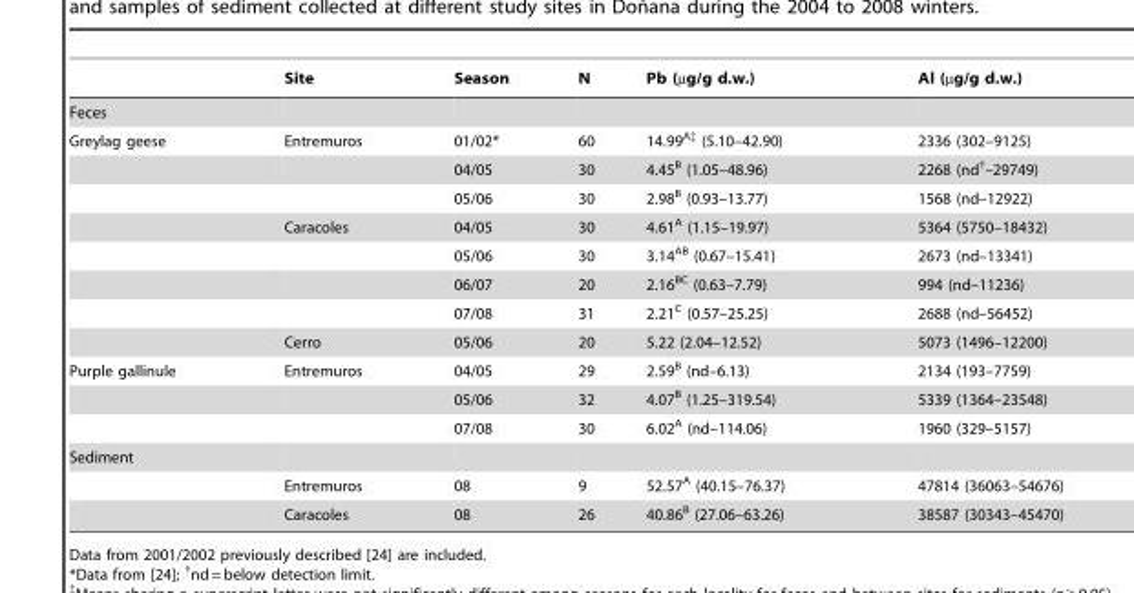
<table><thead><tr><td></td><td>Site</td><td>Season</td><td>N</td><td>Pb (µg/g d.w.)</td><td>Al (µg/g d.w.)</td></tr></thead><tbody><tr><td colspan="6">Feces</td></tr><tr><td rowspan="8">Greylag geese</td><td>Entremuros</td><td>01/02*</td><td>60</td><td>14.99<sup>A</sup>‡ (5.10–42.90)</td><td>2336 (302–9125)</td></tr><tr><td></td><td>04/05</td><td>30</td><td>4.45<sup>B</sup> (1.05–48.96)</td><td>2268 (nd<sup>†</sup>–29749)</td></tr><tr><td></td><td>05/06</td><td>30</td><td>2.98<sup>B</sup> (0.93–13.77)</td><td>1568 (nd–12922)</td></tr><tr><td>Caracoles</td><td>04/05</td><td>30</td><td>4.61<sup>A</sup> (1.15–19.97)</td><td>5364 (5750–18432)</td></tr><tr><td></td><td>05/06</td><td>30</td><td>3.14<sup>AB</sup> (0.67–15.41)</td><td>2673 (nd–13341)</td></tr><tr><td></td><td>06/07</td><td>20</td><td>2.16<sup>BC</sup> (0.63–7.79)</td><td>994 (nd–11236)</td></tr><tr><td></td><td>07/08</td><td>31</td><td>2.21<sup>C</sup> (0.57–25.25)</td><td>2688 (nd–56452)</td></tr><tr><td>Cerro</td><td>05/06</td><td>20</td><td>5.22 (2.04–12.52)</td><td>5073 (1496–12200)</td></tr><tr><td rowspan="3">Purple gallinule</td><td>Entremuros</td><td>04/05</td><td>29</td><td>2.59<sup>B</sup> (nd–6.13)</td><td>2134 (193–7759)</td></tr><tr><td></td><td>05/06</td><td>32</td><td>4.07<sup>B</sup> (1.25–319.54)</td><td>5339 (1364–23548)</td></tr><tr><td></td><td>07/08</td><td>30</td><td>6.02<sup>A</sup> (nd–114.06)</td><td>1960 (329–5157)</td></tr><tr><td colspan="6">Sediment</td></tr><tr><td></td><td>Entremuros</td><td>08</td><td>9</td><td>52.57<sup>A</sup> (40.15–76.37)</td><td>47814 (36063–54676)</td></tr><tr><td></td><td>Caracoles</td><td>08</td><td>26</td><td>40.86<sup>B</sup> (27.06–63.26)</td><td>38587 (30343–45470)</td></tr></tbody></table>